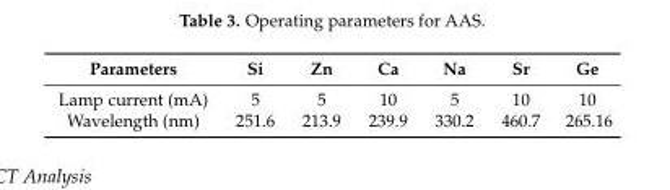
<table><thead><tr><td>Parameters</td><td>Si</td><td>Zn</td><td>Ca</td><td>Na</td><td>Sr</td><td>Ge</td></tr></thead><tbody><tr><td>Lamp current (mA)</td><td>5</td><td>5</td><td>10</td><td>5</td><td>10</td><td>10</td></tr><tr><td>Wavelength (nm)</td><td>251.6</td><td>213.9</td><td>239.9</td><td>330.2</td><td>460.7</td><td>265.16</td></tr></tbody></table>